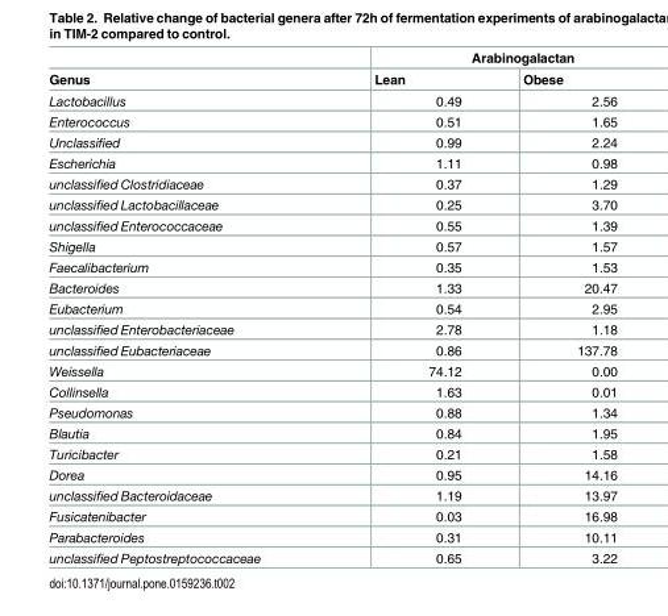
<table><thead><tr><td rowspan="2">Genus</td><td colspan="2">Arabinogalactan</td></tr><tr><td>Lean</td><td>Obese</td></tr></thead><tbody><tr><td>Lactobacillus</td><td>0.49</td><td>2.56</td></tr><tr><td>Enterococcus</td><td>0.51</td><td>1.65</td></tr><tr><td>Unclassified</td><td>0.99</td><td>2.24</td></tr><tr><td>Escherichia</td><td>1.11</td><td>0.98</td></tr><tr><td>unclassified Clostridiaceae</td><td>0.37</td><td>1.29</td></tr><tr><td>unclassified Lactobacillaceae</td><td>0.25</td><td>3.70</td></tr><tr><td>unclassified Enterococcaceae</td><td>0.55</td><td>1.39</td></tr><tr><td>Shigella</td><td>0.57</td><td>1.57</td></tr><tr><td>Faecalibacterium</td><td>0.35</td><td>1.53</td></tr><tr><td>Bacteroides</td><td>1.33</td><td>20.47</td></tr><tr><td>Eubacterium</td><td>0.54</td><td>2.95</td></tr><tr><td>unclassified Enterobacteriaceae</td><td>2.78</td><td>1.18</td></tr><tr><td>unclassified Eubacteriaceae</td><td>0.86</td><td>137.78</td></tr><tr><td>Weissella</td><td>74.12</td><td>0.00</td></tr><tr><td>Collinsella</td><td>1.63</td><td>0.01</td></tr><tr><td>Pseudomonas</td><td>0.88</td><td>1.34</td></tr><tr><td>Blautia</td><td>0.84</td><td>1.95</td></tr><tr><td>Turicibacter</td><td>0.21</td><td>1.58</td></tr><tr><td>Dorea</td><td>0.95</td><td>14.16</td></tr><tr><td>unclassified Bacteroidaceae</td><td>1.19</td><td>13.97</td></tr><tr><td>Fusicatenibacter</td><td>0.03</td><td>16.98</td></tr><tr><td>Parabacteroides</td><td>0.31</td><td>10.11</td></tr><tr><td>unclassified Peptostreptococcaceae</td><td>0.65</td><td>3.22</td></tr></tbody></table>